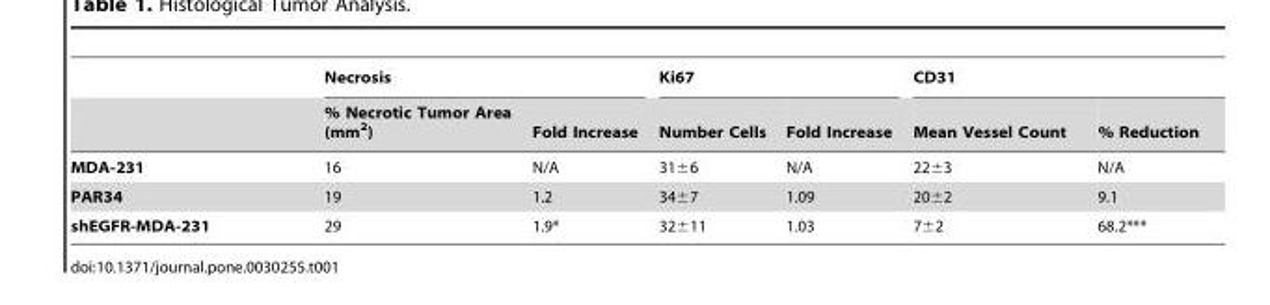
<table><thead><tr><td rowspan="2"></td><td colspan="2">Necrosis</td><td colspan="2">Ki67</td><td colspan="2">CD31</td></tr><tr><td>% Necrotic Tumor Area (mm<sup>2</sup>)</td><td>Fold Increase</td><td>Number Cells</td><td>Fold Increase</td><td>Mean Vessel Count</td><td>% Reduction</td></tr></thead><tbody><tr><td>MDA-231</td><td>16</td><td>N/A</td><td>31±6</td><td>N/A</td><td>22±3</td><td>N/A</td></tr><tr><td>PAR34</td><td>19</td><td>1.2</td><td>34±7</td><td>1.09</td><td>20±2</td><td>9.1</td></tr><tr><td>shEGFR-MDA-231</td><td>29</td><td>1.9*</td><td>32±11</td><td>1.03</td><td>7±2</td><td>68.2***</td></tr></tbody></table>